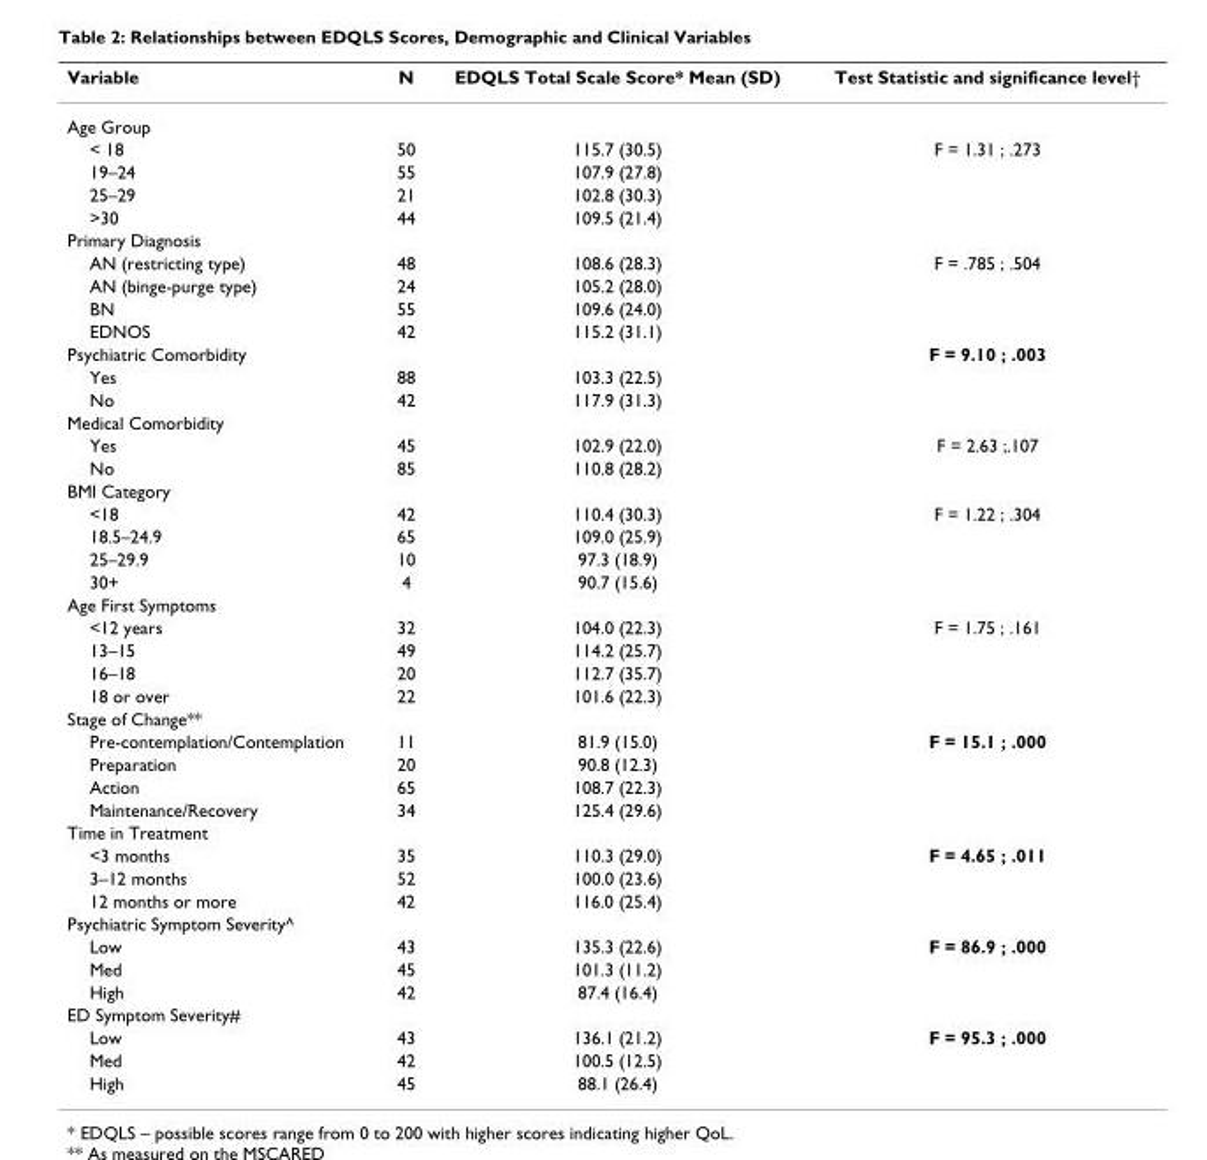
<table><thead><tr><td>Variable</td><td>N</td><td>EDQLS Total Scale Score* Mean (SD)</td><td>Test Statistic and significance level†</td></tr></thead><tbody><tr><td colspan="4">Age Group</td></tr><tr><td>&lt; 18</td><td>50</td><td>115.7 (30.5)</td><td>F = 1.31 ; .273</td></tr><tr><td>19–24</td><td>55</td><td>107.9 (27.8)</td><td></td></tr><tr><td>25–29</td><td>21</td><td>102.8 (30.3)</td><td></td></tr><tr><td>&gt;30</td><td>44</td><td>109.5 (21.4)</td><td></td></tr><tr><td colspan="4">Primary Diagnosis</td></tr><tr><td>AN (restricting type)</td><td>48</td><td>108.6 (28.3)</td><td>F = .785 ; .504</td></tr><tr><td>AN (binge-purge type)</td><td>24</td><td>105.2 (28.0)</td><td></td></tr><tr><td>BN</td><td>55</td><td>109.6 (24.0)</td><td></td></tr><tr><td>EDNOS</td><td>42</td><td>115.2 (31.1)</td><td></td></tr><tr><td>Psychiatric Comorbidity</td><td></td><td></td><td>F = 9.10 ; .003</td></tr><tr><td>Yes</td><td>88</td><td>103.3 (22.5)</td><td></td></tr><tr><td>No</td><td>42</td><td>117.9 (31.3)</td><td></td></tr><tr><td colspan="4">Medical Comorbidity</td></tr><tr><td>Yes</td><td>45</td><td>102.9 (22.0)</td><td>F = 2.63 ;.107</td></tr><tr><td>No</td><td>85</td><td>110.8 (28.2)</td><td></td></tr><tr><td colspan="4">BMI Category</td></tr><tr><td>&lt;18</td><td>42</td><td>110.4 (30.3)</td><td>F = 1.22 ; .304</td></tr><tr><td>18.5–24.9</td><td>65</td><td>109.0 (25.9)</td><td></td></tr><tr><td>25–29.9</td><td>10</td><td>97.3 (18.9)</td><td></td></tr><tr><td>30+</td><td>4</td><td>90.7 (15.6)</td><td></td></tr><tr><td colspan="4">Age First Symptoms</td></tr><tr><td>&lt;12 years</td><td>32</td><td>104.0 (22.3)</td><td>F = 1.75 ; .161</td></tr><tr><td>13–15</td><td>49</td><td>114.2 (25.7)</td><td></td></tr><tr><td>16–18</td><td>20</td><td>112.7 (35.7)</td><td></td></tr><tr><td>18 or over</td><td>22</td><td>101.6 (22.3)</td><td></td></tr><tr><td colspan="4">Stage of Change**</td></tr><tr><td>Pre-contemplation/Contemplation</td><td>11</td><td>81.9 (15.0)</td><td>F = 15.1 ; .000</td></tr><tr><td>Preparation</td><td>20</td><td>90.8 (12.3)</td><td></td></tr><tr><td>Action</td><td>65</td><td>108.7 (22.3)</td><td></td></tr><tr><td>Maintenance/Recovery</td><td>34</td><td>125.4 (29.6)</td><td></td></tr><tr><td colspan="4">Time in Treatment</td></tr><tr><td>&lt;3 months</td><td>35</td><td>110.3 (29.0)</td><td>F = 4.65 ; .011</td></tr><tr><td>3–12 months</td><td>52</td><td>100.0 (23.6)</td><td></td></tr><tr><td>12 months or more</td><td>42</td><td>116.0 (25.4)</td><td></td></tr><tr><td colspan="4">Psychiatric Symptom Severity^</td></tr><tr><td>Low</td><td>43</td><td>135.3 (22.6)</td><td>F = 86.9 ; .000</td></tr><tr><td>Med</td><td>45</td><td>101.3 (11.2)</td><td></td></tr><tr><td>High</td><td>42</td><td>87.4 (16.4)</td><td></td></tr><tr><td colspan="4">ED Symptom Severity#</td></tr><tr><td>Low</td><td>43</td><td>136.1 (21.2)</td><td>F = 95.3 ; .000</td></tr><tr><td>Med</td><td>42</td><td>100.5 (12.5)</td><td></td></tr><tr><td>High</td><td>45</td><td>88.1 (26.4)</td><td></td></tr></tbody></table>